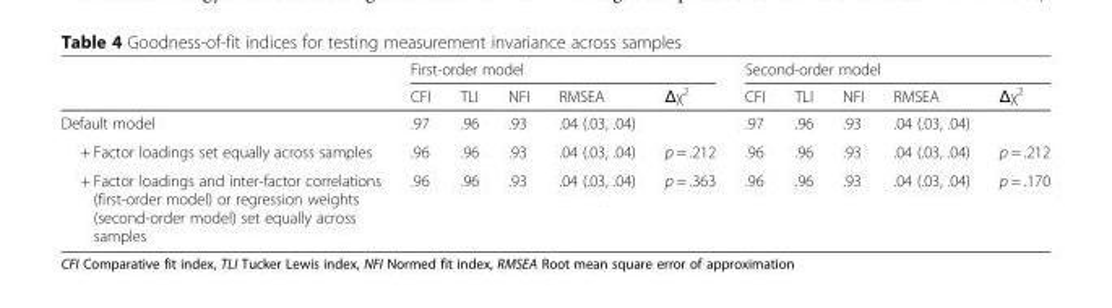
<table><thead><tr><td rowspan="2"></td><td colspan="5">First-order model</td><td colspan="5">Second-order model</td></tr><tr><td>CFI</td><td>TLI</td><td>NFI</td><td>RMSEA</td><td>Δχ<sup>2</sup></td><td>CFI</td><td>TLI</td><td>NFI</td><td>RMSEA</td><td>Δχ<sup>2</sup></td></tr></thead><tbody><tr><td>Default model</td><td>.97</td><td>.96</td><td>.93</td><td>.04 (.03, .04)</td><td></td><td>.97</td><td>.96</td><td>.93</td><td>.04 (.03, .04)</td><td></td></tr><tr><td>+ Factor loadings set equally across samples</td><td>.96</td><td>.96</td><td>.93</td><td>.04 (.03, .04)</td><td>p = .212</td><td>.96</td><td>.96</td><td>.93</td><td>.04 (.03, .04)</td><td>p = .212</td></tr><tr><td>+ Factor loadings and inter-factor correlations (first-order model) or regression weights (second-order model) set equally across samples</td><td>.96</td><td>.96</td><td>.93</td><td>.04 (.03, .04)</td><td>p = .363</td><td>.96</td><td>.96</td><td>.93</td><td>.04 (.03, .04)</td><td>p = .170</td></tr></tbody></table>